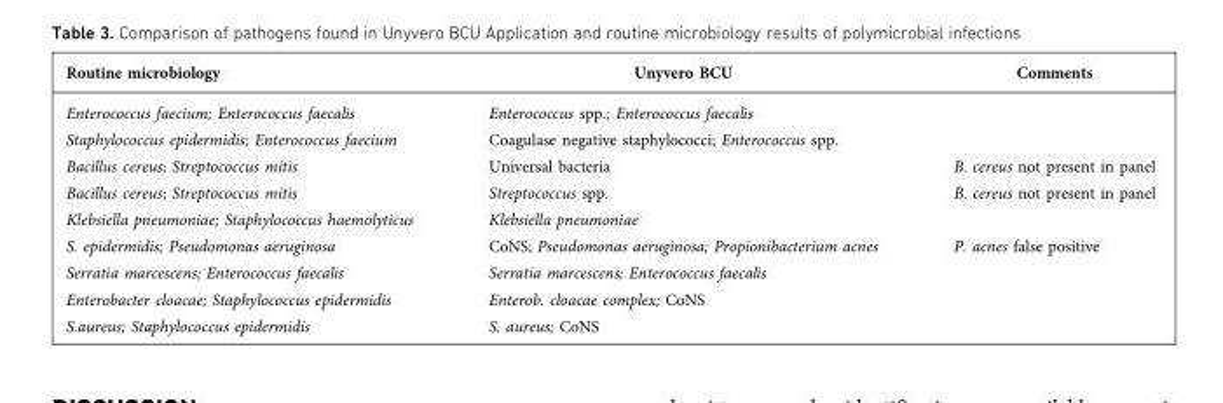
<table><thead><tr><td>Routine microbiology</td><td>Unyvero BCU</td><td>Comments</td></tr></thead><tbody><tr><td>Enterococcus faecium; Enterococcus faecalis</td><td>Enterococcus spp.; Enterococcus faecalis</td><td></td></tr><tr><td>Staphylococcus epidermidis; Enterococcus faecium</td><td>Coagulase negative staphylococci; Enterococcus spp.</td><td></td></tr><tr><td>Bacillus cereus; Streptococcus mitis</td><td>Universal bacteria</td><td>B. cereus not present in panel</td></tr><tr><td>Bacillus cereus; Streptococcus mitis</td><td>Streptococcus spp.</td><td>B. cereus not present in panel</td></tr><tr><td>Klebsiella pneumoniae; Staphylococcus haemolyticus</td><td>Klebsiella pneumoniae</td><td></td></tr><tr><td>S. epidermidis; Pseudomonas aeruginosa</td><td>CoNS; Pseudomonas aeruginosa; Propionibacterium acnes</td><td>P. acnes false positive</td></tr><tr><td>Serratia marcescens; Enterococcus faecalis</td><td>Serratia marcescens; Enterococcus faecalis</td><td></td></tr><tr><td>Enterobacter cloacae; Staphylococcus epidermidis</td><td>Enterob. cloacae complex; CoNS</td><td></td></tr><tr><td>S.aureus; Staphylococcus epidermidis</td><td>S. aureus; CoNS</td><td></td></tr></tbody></table>